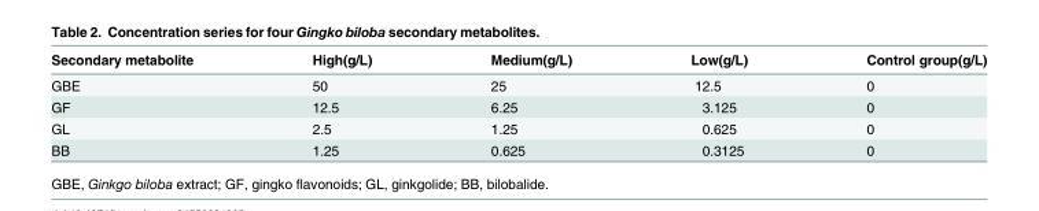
<table><thead><tr><td>Secondary metabolite</td><td>High(g/L)</td><td>Medium(g/L)</td><td>Low(g/L)</td><td>Control group(g/L)</td></tr></thead><tbody><tr><td>GBE</td><td>50</td><td>25</td><td>12.5</td><td>0</td></tr><tr><td>GF</td><td>12.5</td><td>6.25</td><td>3.125</td><td>0</td></tr><tr><td>GL</td><td>2.5</td><td>1.25</td><td>0.625</td><td>0</td></tr><tr><td>BB</td><td>1.25</td><td>0.625</td><td>0.3125</td><td>0</td></tr></tbody></table>